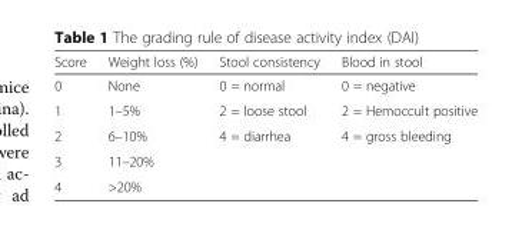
<table><thead><tr><td>Score</td><td>Weight loss (%)</td><td>Stool consistency</td><td>Blood in stool</td></tr></thead><tbody><tr><td>0</td><td>None</td><td>0 = normal</td><td>0 = negative</td></tr><tr><td>1</td><td>1–5%</td><td>2 = loose stool</td><td>2 = Hemoccult positive</td></tr><tr><td>2</td><td>6–10%</td><td>4 = diarrhea</td><td>4 = gross bleeding</td></tr><tr><td>3</td><td>11–20%</td><td></td><td></td></tr><tr><td>4</td><td>&gt;20%</td><td></td><td></td></tr></tbody></table>